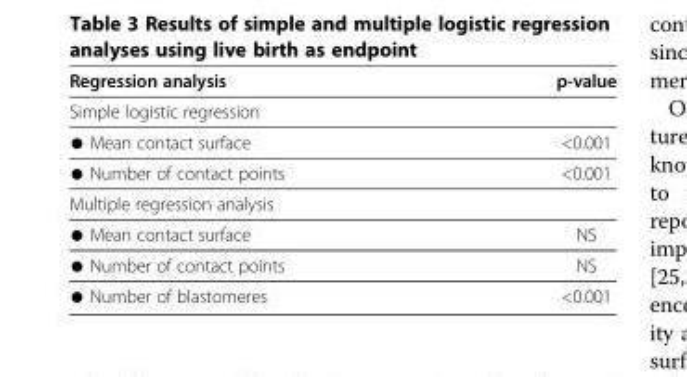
<table><thead><tr><td>Regression analysis</td><td>p-value</td></tr></thead><tbody><tr><td colspan="2">Simple logistic regression</td></tr><tr><td>● Mean contact surface</td><td>&lt;0.001</td></tr><tr><td>● Number of contact points</td><td>&lt;0.001</td></tr><tr><td colspan="2">Multiple regression analysis</td></tr><tr><td>● Mean contact surface</td><td>NS</td></tr><tr><td>● Number of contact points</td><td>NS</td></tr><tr><td>● Number of blastomeres</td><td>&lt;0.001</td></tr></tbody></table>